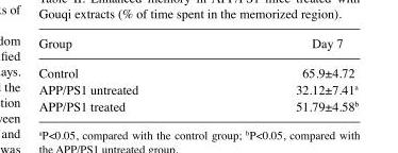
<table><thead><tr><td>Group</td><td>Day 7</td></tr></thead><tbody><tr><td>Control</td><td>65.9±4.72</td></tr><tr><td>APP/PS1 untreated</td><td>32.12±7.41<sup>a</sup></td></tr><tr><td>APP/PS1 treated</td><td>51.79±4.58<sup>b</sup></td></tr></tbody></table>